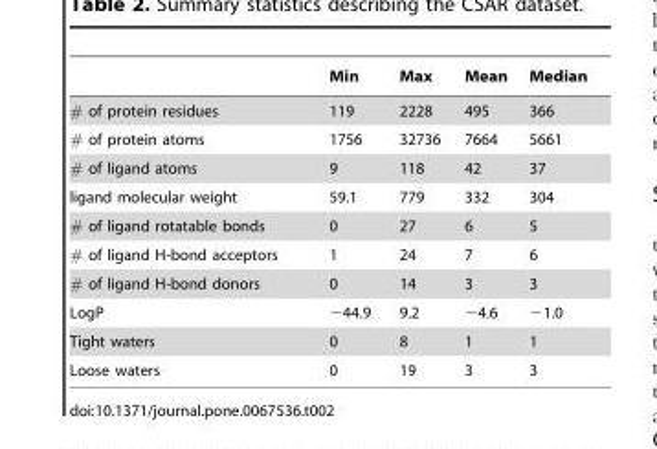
<table><thead><tr><td></td><td>Min</td><td>Max</td><td>Mean</td><td>Median</td></tr></thead><tbody><tr><td># of protein residues</td><td>119</td><td>2228</td><td>495</td><td>366</td></tr><tr><td># of protein atoms</td><td>1756</td><td>32736</td><td>7664</td><td>5661</td></tr><tr><td># of ligand atoms</td><td>9</td><td>118</td><td>42</td><td>37</td></tr><tr><td>ligand molecular weight</td><td>59.1</td><td>779</td><td>332</td><td>304</td></tr><tr><td># of ligand rotatable bonds</td><td>0</td><td>27</td><td>6</td><td>5</td></tr><tr><td># of ligand H-bond acceptors</td><td>1</td><td>24</td><td>7</td><td>6</td></tr><tr><td># of ligand H-bond donors</td><td>0</td><td>14</td><td>3</td><td>3</td></tr><tr><td>LogP</td><td>−44.9</td><td>9.2</td><td>−4.6</td><td>−1.0</td></tr><tr><td>Tight waters</td><td>0</td><td>8</td><td>1</td><td>1</td></tr><tr><td>Loose waters</td><td>0</td><td>19</td><td>3</td><td>3</td></tr></tbody></table>